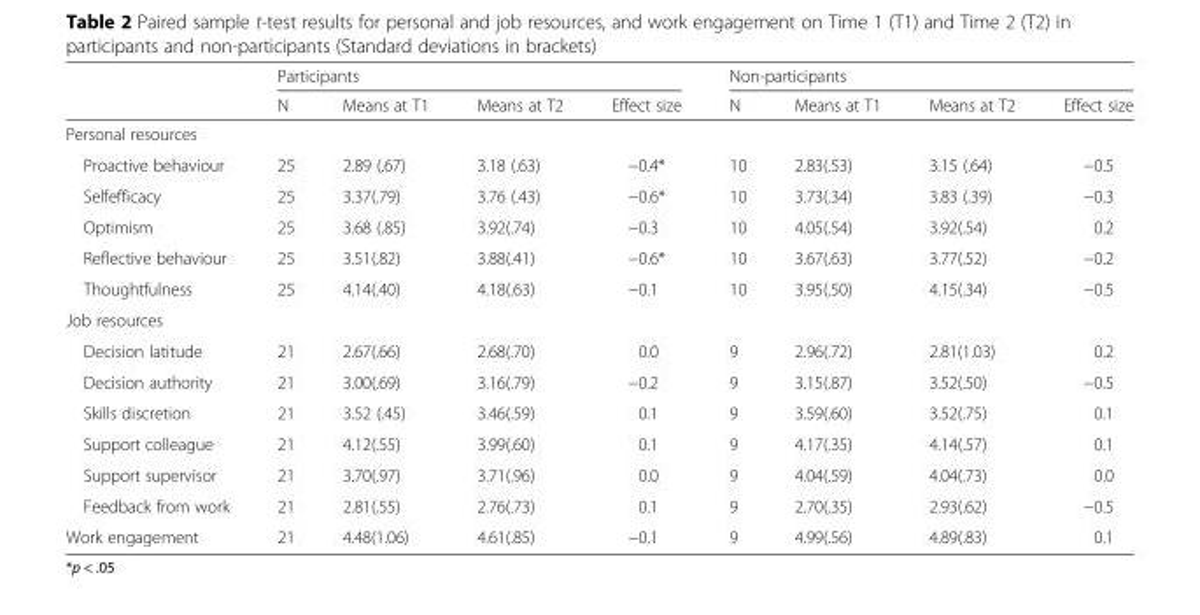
<table><thead><tr><td rowspan="2"></td><td colspan="4">Participants</td><td colspan="4">Non-participants</td></tr><tr><td>N</td><td>Means at T1</td><td>Means at T2</td><td>Effect size</td><td>N</td><td>Means at T1</td><td>Means at T2</td><td>Effect size</td></tr></thead><tbody><tr><td colspan="9">Personal resources</td></tr><tr><td>Proactive behaviour</td><td>25</td><td>2.89 (.67)</td><td>3.18 (.63)</td><td>−0.4*</td><td>10</td><td>2.83(.53)</td><td>3.15 (.64)</td><td>−0.5</td></tr><tr><td>Selfefficacy</td><td>25</td><td>3.37(.79)</td><td>3.76 (.43)</td><td>−0.6*</td><td>10</td><td>3.73(.34)</td><td>3.83 (.39)</td><td>−0.3</td></tr><tr><td>Optimism</td><td>25</td><td>3.68 (.85)</td><td>3.92(.74)</td><td>−0.3</td><td>10</td><td>4.05(.54)</td><td>3.92(.54)</td><td>0.2</td></tr><tr><td>Reflective behaviour</td><td>25</td><td>3.51(.82)</td><td>3.88(.41)</td><td>−0.6*</td><td>10</td><td>3.67(.63)</td><td>3.77(.52)</td><td>−0.2</td></tr><tr><td>Thoughtfulness</td><td>25</td><td>4.14(.40)</td><td>4.18(.63)</td><td>−0.1</td><td>10</td><td>3.95(.50)</td><td>4.15(.34)</td><td>−0.5</td></tr><tr><td colspan="9">Job resources</td></tr><tr><td>Decision latitude</td><td>21</td><td>2.67(.66)</td><td>2.68(.70)</td><td>0.0</td><td>9</td><td>2.96(.72)</td><td>2.81(1.03)</td><td>0.2</td></tr><tr><td>Decision authority</td><td>21</td><td>3.00(.69)</td><td>3.16(.79)</td><td>−0.2</td><td>9</td><td>3.15(.87)</td><td>3.52(.50)</td><td>−0.5</td></tr><tr><td>Skills discretion</td><td>21</td><td>3.52 (.45)</td><td>3.46(.59)</td><td>0.1</td><td>9</td><td>3.59(.60)</td><td>3.52(.75)</td><td>0.1</td></tr><tr><td>Support colleague</td><td>21</td><td>4.12(.55)</td><td>3.99(.60)</td><td>0.1</td><td>9</td><td>4.17(.35)</td><td>4.14(.57)</td><td>0.1</td></tr><tr><td>Support supervisor</td><td>21</td><td>3.70(.97)</td><td>3.71(.96)</td><td>0.0</td><td>9</td><td>4.04(.59)</td><td>4.04(.73)</td><td>0.0</td></tr><tr><td>Feedback from work</td><td>21</td><td>2.81(.55)</td><td>2.76(.73)</td><td>0.1</td><td>9</td><td>2.70(.35)</td><td>2.93(.62)</td><td>−0.5</td></tr><tr><td>Work engagement</td><td>21</td><td>4.48(1.06)</td><td>4.61(.85)</td><td>−0.1</td><td>9</td><td>4.99(.56)</td><td>4.89(.83)</td><td>0.1</td></tr></tbody></table>